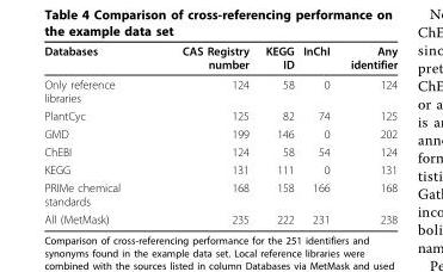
<table><thead><tr><td>Databases</td><td>CAS Registry number</td><td>KEGG ID</td><td>InChI</td><td>Any identifier</td></tr></thead><tbody><tr><td>Only reference libraries</td><td>124</td><td>58</td><td>0</td><td>124</td></tr><tr><td>PlantCyc</td><td>125</td><td>82</td><td>74</td><td>125</td></tr><tr><td>GMD</td><td>199</td><td>146</td><td>0</td><td>202</td></tr><tr><td>ChEBI</td><td>124</td><td>58</td><td>54</td><td>124</td></tr><tr><td>KEGG</td><td>131</td><td>111</td><td>0</td><td>131</td></tr><tr><td>PRIMe chemical standards</td><td>168</td><td>158</td><td>166</td><td>168</td></tr><tr><td>All (MetMask)</td><td>235</td><td>222</td><td>231</td><td>238</td></tr></tbody></table>